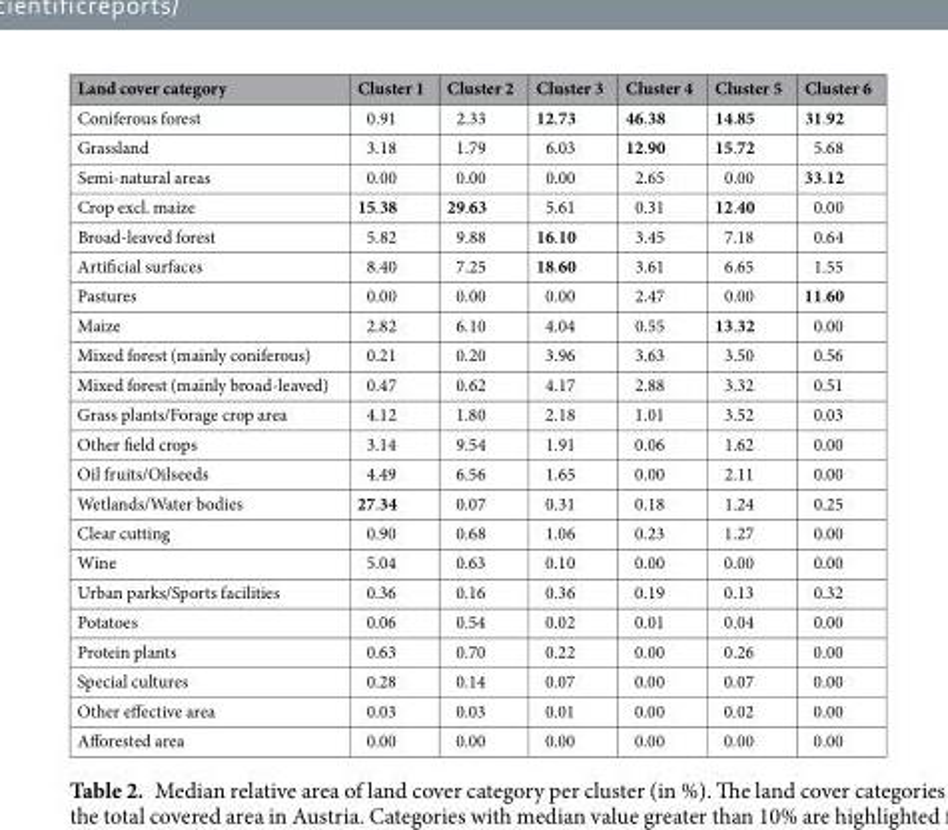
<table><thead><tr><td>Land cover category</td><td>Cluster 1</td><td>Cluster 2</td><td>Cluster 3</td><td>Cluster 4</td><td>Cluster 5</td><td>Cluster 6</td></tr></thead><tbody><tr><td>Coniferous forest</td><td>0.91</td><td>2.33</td><td>12.73</td><td>46.38</td><td>14.85</td><td>31.92</td></tr><tr><td>Grassland</td><td>3.18</td><td>1.79</td><td>6.03</td><td>12.90</td><td>15.72</td><td>5.68</td></tr><tr><td>Semi-natural areas</td><td>0.00</td><td>0.00</td><td>0.00</td><td>2.65</td><td>0.00</td><td>33.12</td></tr><tr><td>Crop excl. maize</td><td>15.38</td><td>29.63</td><td>5.61</td><td>0.31</td><td>12.40</td><td>0.00</td></tr><tr><td>Broad-leaved forest</td><td>5.82</td><td>9.88</td><td>16.10</td><td>3.45</td><td>7.18</td><td>0.64</td></tr><tr><td>Artificial surfaces</td><td>8.40</td><td>7.25</td><td>18.60</td><td>3.61</td><td>6.65</td><td>1.55</td></tr><tr><td>Pastures</td><td>0.00</td><td>0.00</td><td>0.00</td><td>2.47</td><td>0.00</td><td>11.60</td></tr><tr><td>Maize</td><td>2.82</td><td>6.10</td><td>4.04</td><td>0.55</td><td>13.32</td><td>0.00</td></tr><tr><td>Mixed forest (mainly coniferous)</td><td>0.21</td><td>0.20</td><td>3.96</td><td>3.63</td><td>3.50</td><td>0.56</td></tr><tr><td>Mixed forest (mainly broad-leaved)</td><td>0.47</td><td>0.62</td><td>4.17</td><td>2.88</td><td>3.32</td><td>0.51</td></tr><tr><td>Grass plants/Forage crop area</td><td>4.12</td><td>1.80</td><td>2.18</td><td>1.01</td><td>3.52</td><td>0.03</td></tr><tr><td>Other field crops</td><td>3.14</td><td>9.54</td><td>1.91</td><td>0.06</td><td>1.62</td><td>0.00</td></tr><tr><td>Oil fruits/Oilseeds</td><td>4.49</td><td>6.56</td><td>1.65</td><td>0.00</td><td>2.11</td><td>0.00</td></tr><tr><td>Wetlands/Water bodies</td><td>27.34</td><td>0.07</td><td>0.31</td><td>0.18</td><td>1.24</td><td>0.25</td></tr><tr><td>Clear cutting</td><td>0.90</td><td>0.68</td><td>1.06</td><td>0.23</td><td>1.27</td><td>0.00</td></tr><tr><td>Wine</td><td>5.04</td><td>0.63</td><td>0.10</td><td>0.00</td><td>0.00</td><td>0.00</td></tr><tr><td>Urban parks/Sports facilities</td><td>0.36</td><td>0.16</td><td>0.36</td><td>0.19</td><td>0.13</td><td>0.32</td></tr><tr><td>Potatoes</td><td>0.06</td><td>0.54</td><td>0.02</td><td>0.01</td><td>0.04</td><td>0.00</td></tr><tr><td>Protein plants</td><td>0.63</td><td>0.70</td><td>0.22</td><td>0.00</td><td>0.26</td><td>0.00</td></tr><tr><td>Special cultures</td><td>0.28</td><td>0.14</td><td>0.07</td><td>0.00</td><td>0.07</td><td>0.00</td></tr><tr><td>Other effective area</td><td>0.03</td><td>0.03</td><td>0.01</td><td>0.00</td><td>0.02</td><td>0.00</td></tr><tr><td>Afforested area</td><td>0.00</td><td>0.00</td><td>0.00</td><td>0.00</td><td>0.00</td><td>0.00</td></tr></tbody></table>